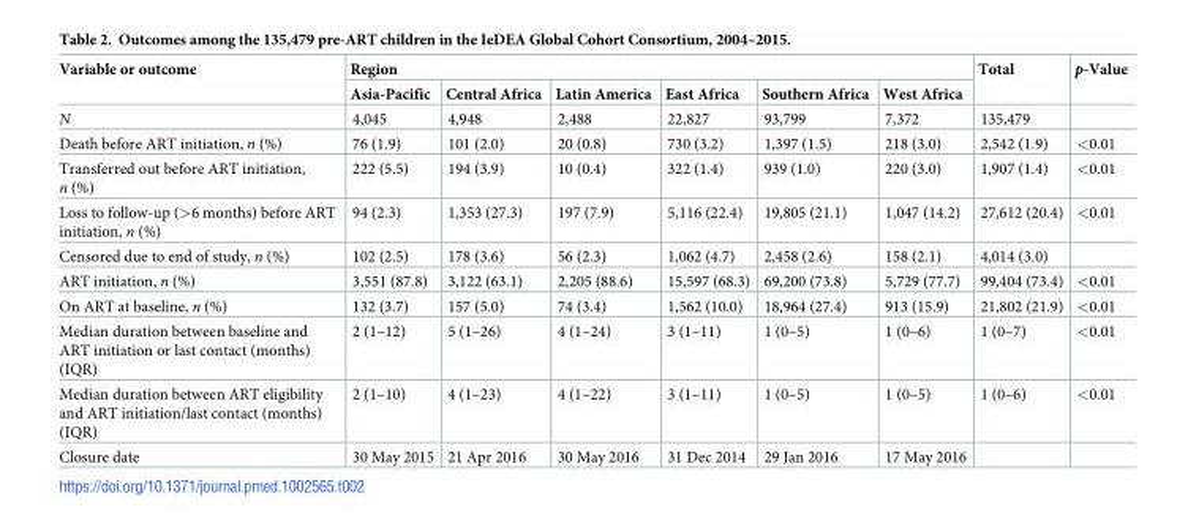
<table><thead><tr><td rowspan="2">Variable or outcome</td><td colspan="6">Region</td><td rowspan="2">Total</td><td rowspan="2">p-Value</td></tr><tr><td>Asia-Pacific</td><td>Central Africa</td><td>Latin America</td><td>East Africa</td><td>Southern Africa</td><td>West Africa</td></tr></thead><tbody><tr><td>N</td><td>4,045</td><td>4,948</td><td>2,488</td><td>22,827</td><td>93,799</td><td>7,372</td><td>135,479</td><td></td></tr><tr><td>Death before ART initiation, n (%)</td><td>76 (1.9)</td><td>101 (2.0)</td><td>20 (0.8)</td><td>730 (3.2)</td><td>1,397 (1.5)</td><td>218 (3.0)</td><td>2,542 (1.9)</td><td>&lt;0.01</td></tr><tr><td>Transferred out before ART initiation, n (%)</td><td>222 (5.5)</td><td>194 (3.9)</td><td>10 (0.4)</td><td>322 (1.4)</td><td>939 (1.0)</td><td>220 (3.0)</td><td>1,907 (1.4)</td><td>&lt;0.01</td></tr><tr><td>Loss to follow-up (&gt;6 months) before ART initiation, n (%)</td><td>94 (2.3)</td><td>1,353 (27.3)</td><td>197 (7.9)</td><td>5,116 (22.4)</td><td>19,805 (21.1)</td><td>1,047 (14.2)</td><td>27,612 (20.4)</td><td>&lt;0.01</td></tr><tr><td>Censored due to end of study, n (%)</td><td>102 (2.5)</td><td>178 (3.6)</td><td>56 (2.3)</td><td>1,062 (4.7)</td><td>2,458 (2.6)</td><td>158 (2.1)</td><td>4,014 (3.0)</td><td></td></tr><tr><td>ART initiation, n (%)</td><td>3,551 (87.8)</td><td>3,122 (63.1)</td><td>2,205 (88.6)</td><td>15,597 (68.3)</td><td>69,200 (73.8)</td><td>5,729 (77.7)</td><td>99,404 (73.4)</td><td>&lt;0.01</td></tr><tr><td>On ART at baseline, n (%)</td><td>132 (3.7)</td><td>157 (5.0)</td><td>74 (3.4)</td><td>1,562 (10.0)</td><td>18,964 (27.4)</td><td>913 (15.9)</td><td>21,802 (21.9)</td><td>&lt;0.01</td></tr><tr><td>Median duration between baseline and ART initiation or last contact (months) (IQR)</td><td>2 (1–12)</td><td>5 (1–26)</td><td>4 (1–24)</td><td>3 (1–11)</td><td>1 (0–5)</td><td>1 (0–6)</td><td>1 (0–7)</td><td>&lt;0.01</td></tr><tr><td>Median duration between ART eligibility and ART initiation/last contact (months) (IQR)</td><td>2 (1–10)</td><td>4 (1–23)</td><td>4 (1–22)</td><td>3 (1–11)</td><td>1 (0–5)</td><td>1 (0–5)</td><td>1 (0–6)</td><td>&lt;0.01</td></tr><tr><td>Closure date</td><td>30 May 2015</td><td>21 Apr 2016</td><td>30 May 2016</td><td>31 Dec 2014</td><td>29 Jan 2016</td><td>17 May 2016</td><td></td><td></td></tr></tbody></table>